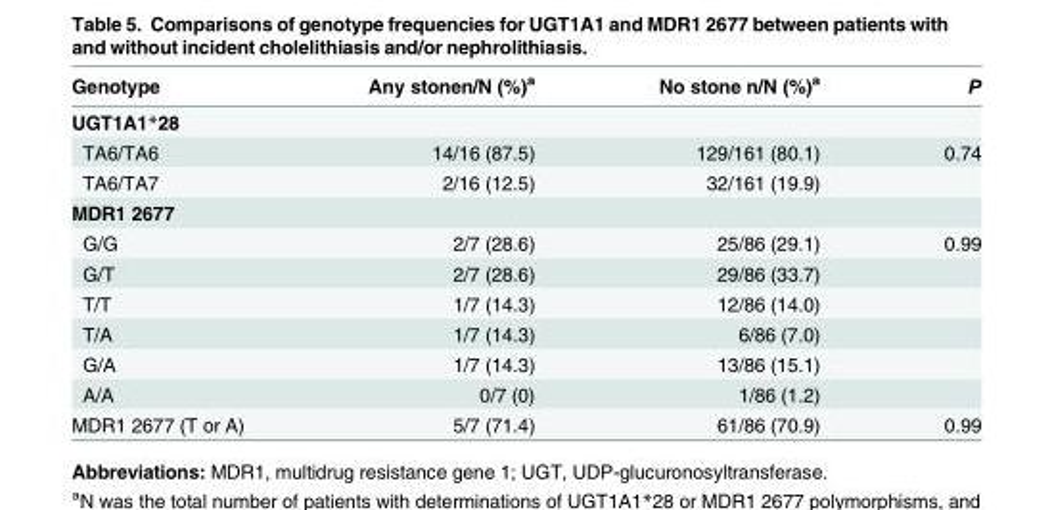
<table><thead><tr><td>Genotype</td><td>Any stonen/N (%)<sup>a</sup></td><td>No stone n/N (%)<sup>a</sup></td><td>P</td></tr></thead><tbody><tr><td colspan="4">UGT1A1*28</td></tr><tr><td>TA6/TA6</td><td>14/16 (87.5)</td><td>129/161 (80.1)</td><td>0.74</td></tr><tr><td>TA6/TA7</td><td>2/16 (12.5)</td><td>32/161 (19.9)</td><td></td></tr><tr><td colspan="4">MDR1 2677</td></tr><tr><td>G/G</td><td>2/7 (28.6)</td><td>25/86 (29.1)</td><td>0.99</td></tr><tr><td>G/T</td><td>2/7 (28.6)</td><td>29/86 (33.7)</td><td></td></tr><tr><td>T/T</td><td>1/7 (14.3)</td><td>12/86 (14.0)</td><td></td></tr><tr><td>T/A</td><td>1/7 (14.3)</td><td>6/86 (7.0)</td><td></td></tr><tr><td>G/A</td><td>1/7 (14.3)</td><td>13/86 (15.1)</td><td></td></tr><tr><td>A/A</td><td>0/7 (0)</td><td>1/86 (1.2)</td><td></td></tr><tr><td>MDR1 2677 (T or A)</td><td>5/7 (71.4)</td><td>61/86 (70.9)</td><td>0.99</td></tr></tbody></table>